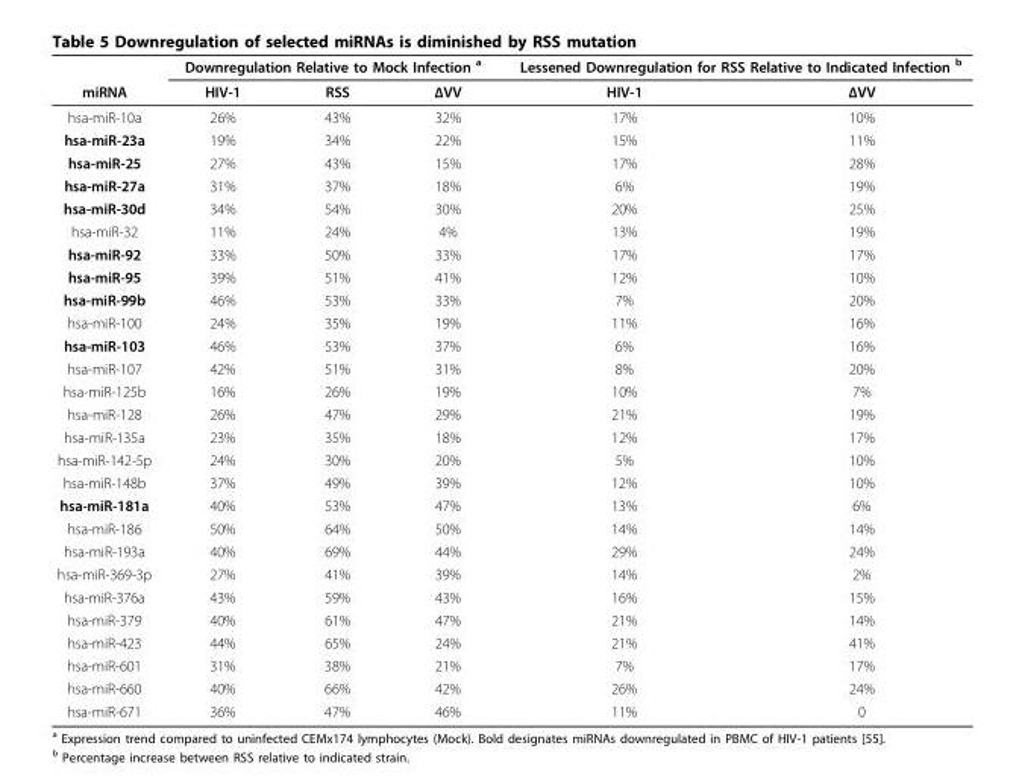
<table><thead><tr><td rowspan="2">miRNA</td><td colspan="3">Downregulation Relative to Mock Infection <sup>a</sup></td><td colspan="2">Lessened Downregulation for RSS Relative to Indicated Infection <sup>b</sup></td></tr><tr><td>HIV-1</td><td>RSS</td><td>ΔVV</td><td>HIV-1</td><td>ΔVV</td></tr></thead><tbody><tr><td>hsa-miR-10a</td><td>26%</td><td>43%</td><td>32%</td><td>17%</td><td>10%</td></tr><tr><td>hsa-miR-23a</td><td>19%</td><td>34%</td><td>22%</td><td>15%</td><td>11%</td></tr><tr><td>hsa-miR-25</td><td>27%</td><td>43%</td><td>15%</td><td>17%</td><td>28%</td></tr><tr><td>hsa-miR-27a</td><td>31%</td><td>37%</td><td>18%</td><td>6%</td><td>19%</td></tr><tr><td>hsa-miR-30d</td><td>34%</td><td>54%</td><td>30%</td><td>20%</td><td>25%</td></tr><tr><td>hsa-miR-32</td><td>11%</td><td>24%</td><td>4%</td><td>13%</td><td>19%</td></tr><tr><td>hsa-miR-92</td><td>33%</td><td>50%</td><td>33%</td><td>17%</td><td>17%</td></tr><tr><td>hsa-miR-95</td><td>39%</td><td>51%</td><td>41%</td><td>12%</td><td>10%</td></tr><tr><td>hsa-miR-99b</td><td>46%</td><td>53%</td><td>33%</td><td>7%</td><td>20%</td></tr><tr><td>hsa-miR-100</td><td>24%</td><td>35%</td><td>19%</td><td>11%</td><td>16%</td></tr><tr><td>hsa-miR-103</td><td>46%</td><td>53%</td><td>37%</td><td>6%</td><td>16%</td></tr><tr><td>hsa-miR-107</td><td>42%</td><td>51%</td><td>31%</td><td>8%</td><td>20%</td></tr><tr><td>hsa-miR-125b</td><td>16%</td><td>26%</td><td>19%</td><td>10%</td><td>7%</td></tr><tr><td>hsa-miR-128</td><td>26%</td><td>47%</td><td>29%</td><td>21%</td><td>19%</td></tr><tr><td>hsa-miR-135a</td><td>23%</td><td>35%</td><td>18%</td><td>12%</td><td>17%</td></tr><tr><td>hsa-miR-142-5p</td><td>24%</td><td>30%</td><td>20%</td><td>5%</td><td>10%</td></tr><tr><td>hsa-miR-148b</td><td>37%</td><td>49%</td><td>39%</td><td>12%</td><td>10%</td></tr><tr><td>hsa-miR-181a</td><td>40%</td><td>53%</td><td>47%</td><td>13%</td><td>6%</td></tr><tr><td>hsa-miR-186</td><td>50%</td><td>64%</td><td>50%</td><td>14%</td><td>14%</td></tr><tr><td>hsa-miR-193a</td><td>40%</td><td>69%</td><td>44%</td><td>29%</td><td>24%</td></tr><tr><td>hsa-miR-369-3p</td><td>27%</td><td>41%</td><td>39%</td><td>14%</td><td>2%</td></tr><tr><td>hsa-miR-376a</td><td>43%</td><td>59%</td><td>43%</td><td>16%</td><td>15%</td></tr><tr><td>hsa-miR-379</td><td>40%</td><td>61%</td><td>47%</td><td>21%</td><td>14%</td></tr><tr><td>hsa-miR-423</td><td>44%</td><td>65%</td><td>24%</td><td>21%</td><td>41%</td></tr><tr><td>hsa-miR-601</td><td>31%</td><td>38%</td><td>21%</td><td>7%</td><td>17%</td></tr><tr><td>hsa-miR-660</td><td>40%</td><td>66%</td><td>42%</td><td>26%</td><td>24%</td></tr><tr><td>hsa-miR-671</td><td>36%</td><td>47%</td><td>46%</td><td>11%</td><td>0</td></tr></tbody></table>